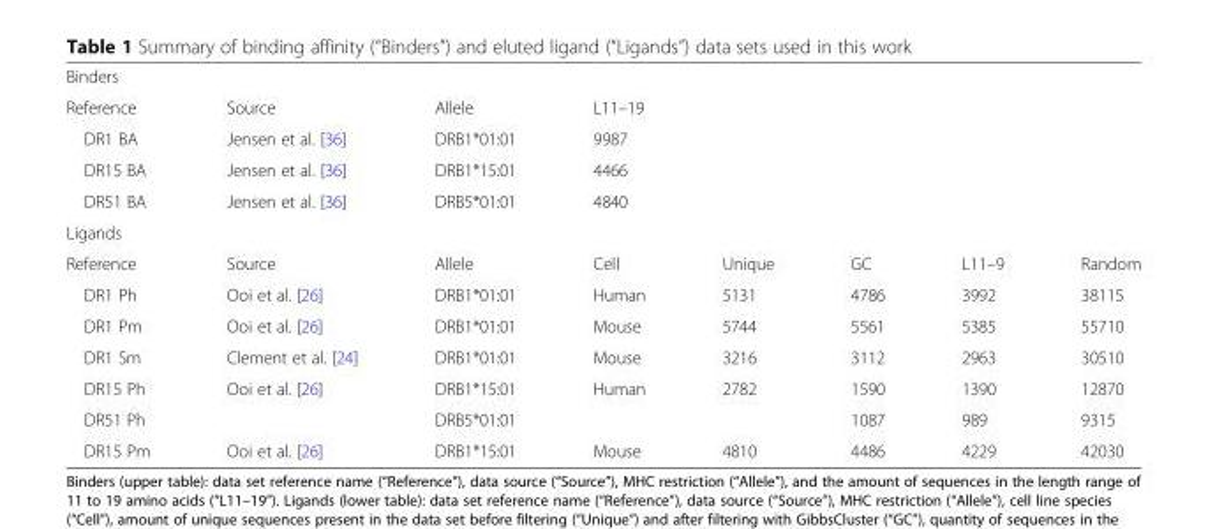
<table><tbody><tr><td colspan="8">Binders</td></tr><tr><td>Reference</td><td>Source</td><td>Allele</td><td>L11–19</td><td></td><td></td><td></td><td></td></tr><tr><td>DR1 BA</td><td>Jensen et al. [36]</td><td>DRB1*01:01</td><td>9987</td><td></td><td></td><td></td><td></td></tr><tr><td>DR15 BA</td><td>Jensen et al. [36]</td><td>DRB1*15:01</td><td>4466</td><td></td><td></td><td></td><td></td></tr><tr><td>DR51 BA</td><td>Jensen et al. [36]</td><td>DRB5*01:01</td><td>4840</td><td></td><td></td><td></td><td></td></tr><tr><td colspan="8">Ligands</td></tr><tr><td>Reference</td><td>Source</td><td>Allele</td><td>Cell</td><td>Unique</td><td>GC</td><td>L11–9</td><td>Random</td></tr><tr><td>DR1 Ph</td><td>Ooi et al. [26]</td><td>DRB1*01:01</td><td>Human</td><td>5131</td><td>4786</td><td>3992</td><td>38115</td></tr><tr><td>DR1 Pm</td><td>Ooi et al. [26]</td><td>DRB1*01:01</td><td>Mouse</td><td>5744</td><td>5561</td><td>5385</td><td>55710</td></tr><tr><td>DR1 Sm</td><td>Clement et al. [24]</td><td>DRB1*01:01</td><td>Mouse</td><td>3216</td><td>3112</td><td>2963</td><td>30510</td></tr><tr><td>DR15 Ph</td><td rowspan="2">Ooi et al. [26]</td><td>DRB1*15:01</td><td rowspan="2">Human</td><td rowspan="2">2782</td><td>1590</td><td>1390</td><td>12870</td></tr><tr><td>DR51 Ph</td><td>DRB5*01:01</td><td>1087</td><td>989</td><td>9315</td></tr><tr><td>DR15 Pm</td><td>Ooi et al. [26]</td><td>DRB1*15:01</td><td>Mouse</td><td>4810</td><td>4486</td><td>4229</td><td>42030</td></tr></tbody></table>